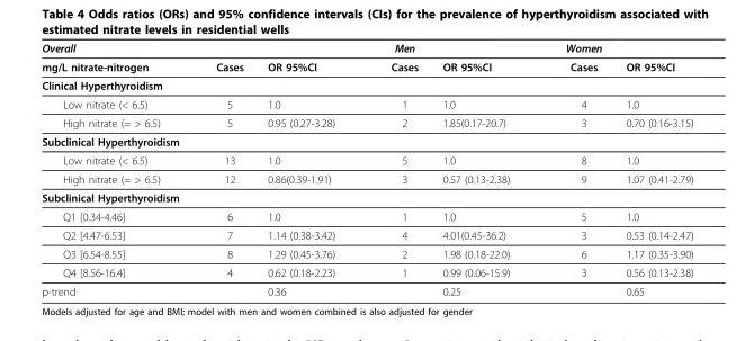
<table><thead><tr><td>Overall</td><td></td><td></td><td>Men</td><td></td><td>Women</td><td></td></tr></thead><tbody><tr><td>mg/L nitrate-nitrogen</td><td>Cases</td><td>OR 95%CI</td><td>Cases</td><td>OR 95%CI</td><td>Cases</td><td>OR 95%CI</td></tr><tr><td colspan="7">Clinical Hyperthyroidism</td></tr><tr><td>Low nitrate (&lt; 6.5)</td><td>5</td><td>1.0</td><td>1</td><td>1.0</td><td>4</td><td>1.0</td></tr><tr><td>High nitrate (= &gt; 6.5)</td><td>5</td><td>0.95 (0.27-3.28)</td><td>2</td><td>1.85(0.17-20.7)</td><td>3</td><td>0.70 (0.16-3.15)</td></tr><tr><td colspan="7">Subclinical Hyperthyroidism</td></tr><tr><td>Low nitrate (&lt; 6.5)</td><td>13</td><td>1.0</td><td>5</td><td>1.0</td><td>8</td><td>1.0</td></tr><tr><td>High nitrate (= &gt; 6.5)</td><td>12</td><td>0.86(0.39-1.91)</td><td>3</td><td>0.57 (0.13-2.38)</td><td>9</td><td>1.07 (0.41-2.79)</td></tr><tr><td colspan="7">Subclinical Hyperthyroidism</td></tr><tr><td>Q1 [0.34-4.46]</td><td>6</td><td>1.0</td><td>1</td><td>1.0</td><td>5</td><td>1.0</td></tr><tr><td>Q2 [4.47-6.53]</td><td>7</td><td>1.14 (0.38-3.42)</td><td>4</td><td>4.01(0.45-36.2)</td><td>3</td><td>0.53 (0.14-2.47)</td></tr><tr><td>Q3 [6.54-8.55]</td><td>8</td><td>1.29 (0.45-3.76)</td><td>2</td><td>1.98 (0.18-22.0)</td><td>6</td><td>1.17 (0.35-3.90)</td></tr><tr><td>Q4 [8.56-16.4]</td><td>4</td><td>0.62 (0.18-2.23)</td><td>1</td><td>0.99 (0.06-15.9)</td><td>3</td><td>0.56 (0.13-2.38)</td></tr><tr><td>p-trend</td><td></td><td>0.36</td><td></td><td>0.25</td><td></td><td>0.65</td></tr></tbody></table>